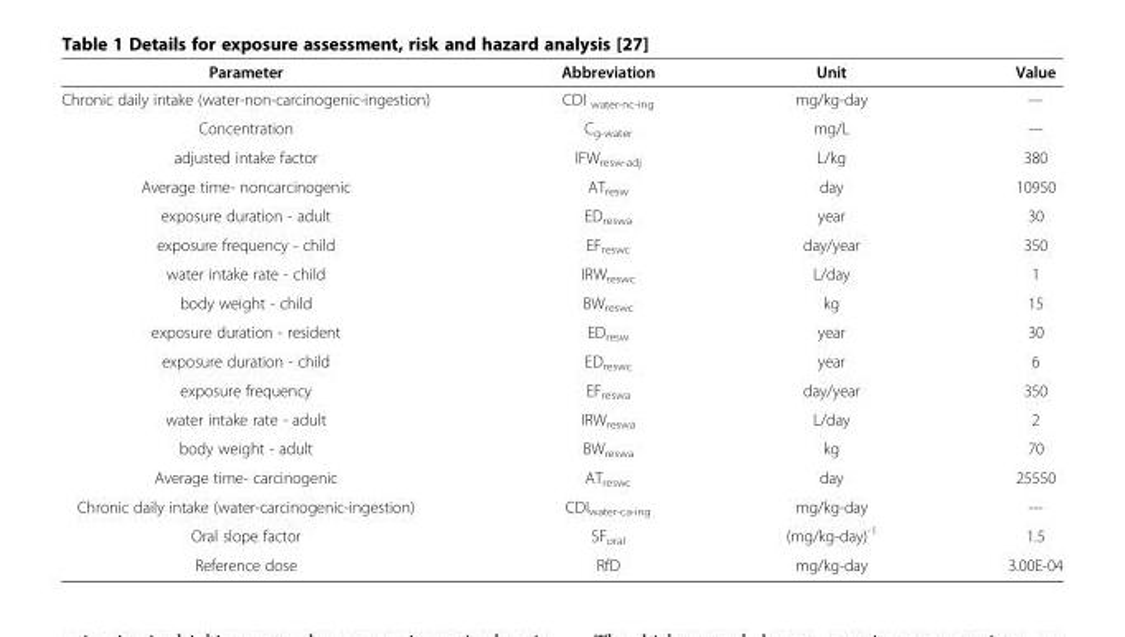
<table><thead><tr><td>Parameter</td><td>Abbreviation</td><td>Unit</td><td>Value</td></tr></thead><tbody><tr><td>Chronic daily intake (water-non-carcinogenic-ingestion)</td><td>CDI <sub>water-nc-ing</sub></td><td>mg/kg-day</td><td>---</td></tr><tr><td>Concentration</td><td>C<sub>g-water</sub></td><td>mg/L</td><td>---</td></tr><tr><td>adjusted intake factor</td><td>IFW<sub>resw-adj</sub></td><td>L/kg</td><td>380</td></tr><tr><td>Average time- noncarcinogenic</td><td>AT<sub>resw</sub></td><td>day</td><td>10950</td></tr><tr><td>exposure duration - adult</td><td>ED<sub>reswa</sub></td><td>year</td><td>30</td></tr><tr><td>exposure frequency - child</td><td>EF<sub>reswc</sub></td><td>day/year</td><td>350</td></tr><tr><td>water intake rate - child</td><td>IRW<sub>reswc</sub></td><td>L/day</td><td>1</td></tr><tr><td>body weight - child</td><td>BW<sub>reswc</sub></td><td>kg</td><td>15</td></tr><tr><td>exposure duration - resident</td><td>ED<sub>resw</sub></td><td>year</td><td>30</td></tr><tr><td>exposure duration - child</td><td>ED<sub>reswc</sub></td><td>year</td><td>6</td></tr><tr><td>exposure frequency</td><td>EF<sub>reswa</sub></td><td>day/year</td><td>350</td></tr><tr><td>water intake rate - adult</td><td>IRW<sub>reswa</sub></td><td>L/day</td><td>2</td></tr><tr><td>body weight - adult</td><td>BW<sub>reswa</sub></td><td>kg</td><td>70</td></tr><tr><td>Average time- carcinogenic</td><td>AT<sub>reswc</sub></td><td>day</td><td>25550</td></tr><tr><td>Chronic daily intake (water-carcinogenic-ingestion)</td><td>CDI<sub>water-ca-ing</sub></td><td>mg/kg-day</td><td>---</td></tr><tr><td>Oral slope factor</td><td>SF<sub>oral</sub></td><td>(mg/kg-day)<sup>-1</sup></td><td>1.5</td></tr><tr><td>Reference dose</td><td>RfD</td><td>mg/kg-day</td><td>3.00E-04</td></tr></tbody></table>